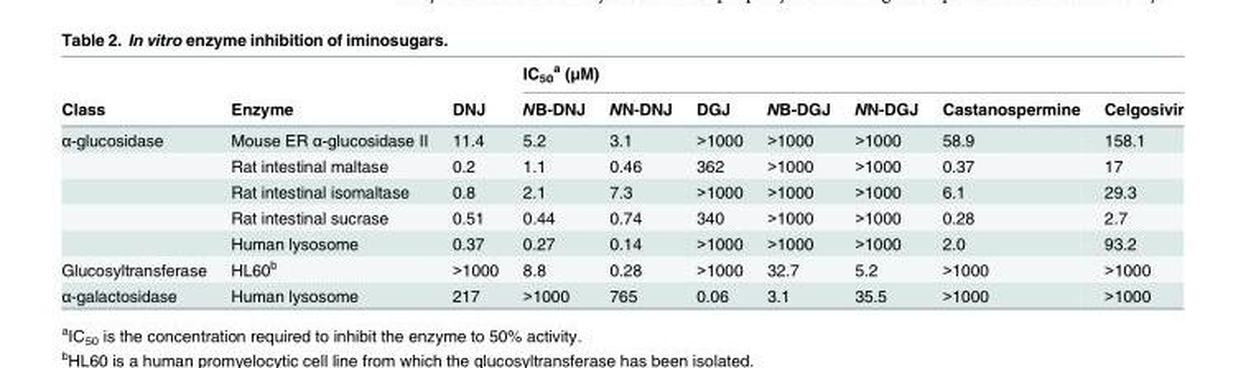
<table><thead><tr><td rowspan="2">Class</td><td rowspan="2">Enzyme</td><td rowspan="2">DNJ</td><td colspan="7">IC<sub>50</sub> <sup>a</sup> (μM)</td></tr><tr><td>NB-DNJ</td><td>NN-DNJ</td><td>DGJ</td><td>NB-DGJ</td><td>NN-DGJ</td><td>Castanospermine</td><td>Celgosivir</td></tr></thead><tbody><tr><td rowspan="5">α-glucosidase</td><td>Mouse ER α-glucosidase II</td><td>11.4</td><td>5.2</td><td>3.1</td><td>&gt;1000</td><td>&gt;1000</td><td>&gt;1000</td><td>58.9</td><td>158.1</td></tr><tr><td>Rat intestinal maltase</td><td>0.2</td><td>1.1</td><td>0.46</td><td>362</td><td>&gt;1000</td><td>&gt;1000</td><td>0.37</td><td>17</td></tr><tr><td>Rat intestinal isomaltase</td><td>0.8</td><td>2.1</td><td>7.3</td><td>&gt;1000</td><td>&gt;1000</td><td>&gt;1000</td><td>6.1</td><td>29.3</td></tr><tr><td>Rat intestinal sucrase</td><td>0.51</td><td>0.44</td><td>0.74</td><td>340</td><td>&gt;1000</td><td>&gt;1000</td><td>0.28</td><td>2.7</td></tr><tr><td>Human lysosome</td><td>0.37</td><td>0.27</td><td>0.14</td><td>&gt;1000</td><td>&gt;1000</td><td>&gt;1000</td><td>2.0</td><td>93.2</td></tr><tr><td>Glucosyltransferase</td><td>HL60<sup>b</sup></td><td>&gt;1000</td><td>8.8</td><td>0.28</td><td>&gt;1000</td><td>32.7</td><td>5.2</td><td>&gt;1000</td><td>&gt;1000</td></tr><tr><td>α-galactosidase</td><td>Human lysosome</td><td>217</td><td>&gt;1000</td><td>765</td><td>0.06</td><td>3.1</td><td>35.5</td><td>&gt;1000</td><td>&gt;1000</td></tr></tbody></table>